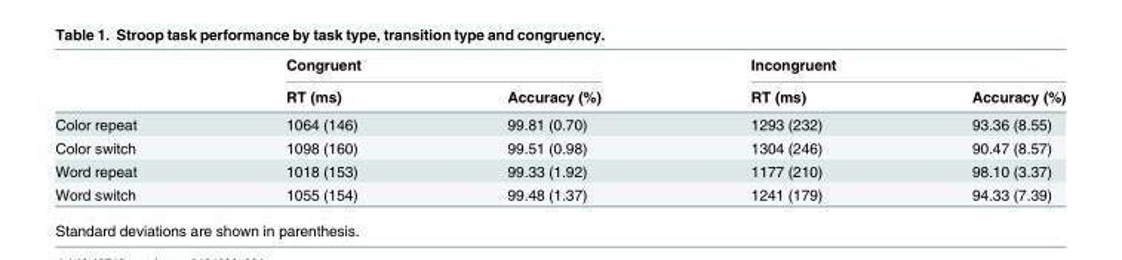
<table><thead><tr><td rowspan="2"></td><td colspan="2">Congruent</td><td colspan="2">Incongruent</td></tr><tr><td>RT (ms)</td><td>Accuracy (%)</td><td>RT (ms)</td><td>Accuracy (%)</td></tr></thead><tbody><tr><td>Color repeat</td><td>1064 (146)</td><td>99.81 (0.70)</td><td>1293 (232)</td><td>93.36 (8.55)</td></tr><tr><td>Color switch</td><td>1098 (160)</td><td>99.51 (0.98)</td><td>1304 (246)</td><td>90.47 (8.57)</td></tr><tr><td>Word repeat</td><td>1018 (153)</td><td>99.33 (1.92)</td><td>1177 (210)</td><td>98.10 (3.37)</td></tr><tr><td>Word switch</td><td>1055 (154)</td><td>99.48 (1.37)</td><td>1241 (179)</td><td>94.33 (7.39)</td></tr></tbody></table>